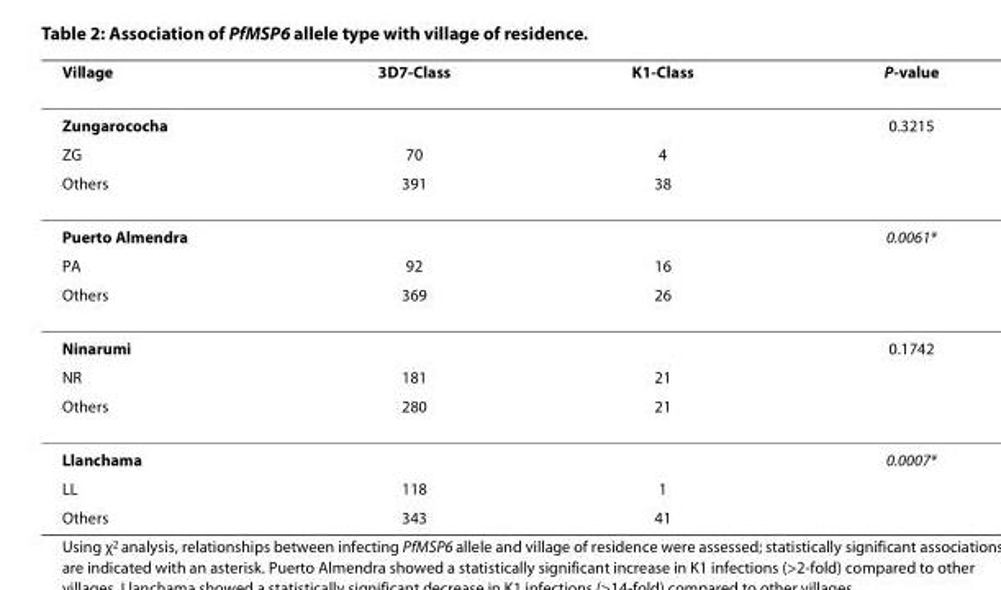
<table><thead><tr><td>Village</td><td>3D7-Class</td><td>K1-Class</td><td>P-value</td></tr></thead><tbody><tr><td>Zungarococha</td><td></td><td></td><td>0.3215</td></tr><tr><td>ZG</td><td>70</td><td>4</td><td></td></tr><tr><td>Others</td><td>391</td><td>38</td><td></td></tr><tr><td>Puerto Almendra</td><td></td><td></td><td>0.0061*</td></tr><tr><td>PA</td><td>92</td><td>16</td><td></td></tr><tr><td>Others</td><td>369</td><td>26</td><td></td></tr><tr><td>Ninarumi</td><td></td><td></td><td>0.1742</td></tr><tr><td>NR</td><td>181</td><td>21</td><td></td></tr><tr><td>Others</td><td>280</td><td>21</td><td></td></tr><tr><td>Llanchama</td><td></td><td></td><td>0.0007*</td></tr><tr><td>LL</td><td>118</td><td>1</td><td></td></tr><tr><td>Others</td><td>343</td><td>41</td><td></td></tr></tbody></table>